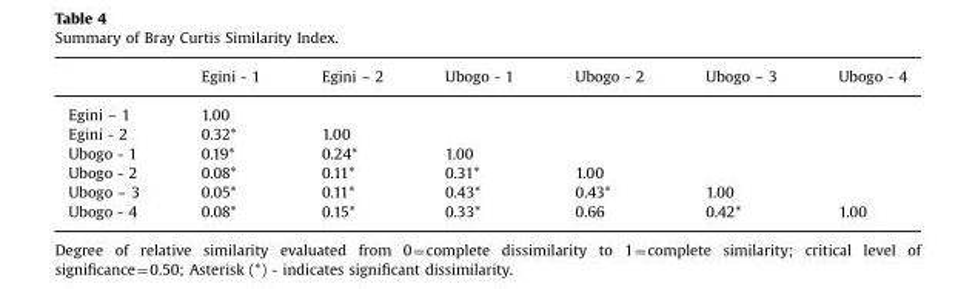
<table><thead><tr><td></td><td>Egini - 1</td><td>Egini – 2</td><td>Ubogo - 1</td><td>Ubogo - 2</td><td>Ubogo – 3</td><td>Ubogo - 4</td></tr></thead><tbody><tr><td>Egini – 1</td><td>1.00</td><td></td><td></td><td></td><td></td><td></td></tr><tr><td>Egini - 2</td><td>0.32*</td><td>1.00</td><td></td><td></td><td></td><td></td></tr><tr><td>Ubogo - 1</td><td>0.19*</td><td>0.24*</td><td>1.00</td><td></td><td></td><td></td></tr><tr><td>Ubogo - 2</td><td>0.08*</td><td>0.11*</td><td>0.31*</td><td>1.00</td><td></td><td></td></tr><tr><td>Ubogo – 3</td><td>0.05*</td><td>0.11*</td><td>0.43*</td><td>0.43*</td><td>1.00</td><td></td></tr><tr><td>Ubogo - 4</td><td>0.08*</td><td>0.15*</td><td>0.33*</td><td>0.66</td><td>0.42*</td><td>1.00</td></tr></tbody></table>